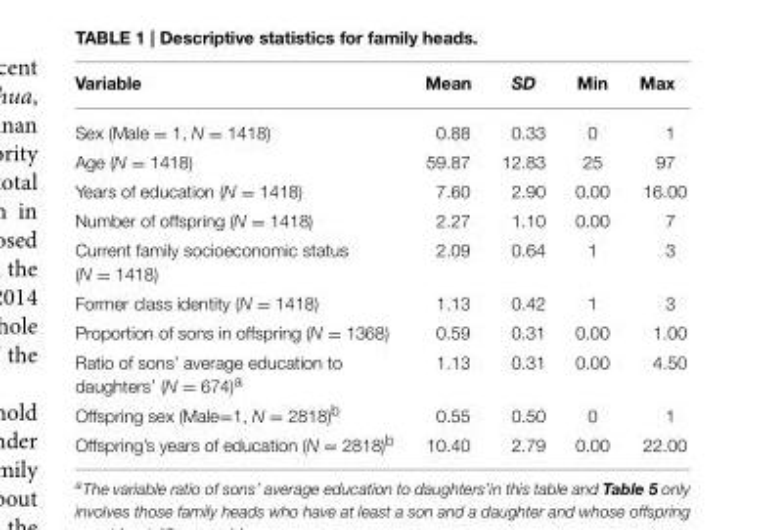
<table><thead><tr><td>Variable</td><td>Mean</td><td>SD</td><td>Min</td><td>Max</td></tr></thead><tbody><tr><td>Sex (Male = 1, N = 1418)</td><td>0.88</td><td>0.33</td><td>0</td><td>1</td></tr><tr><td>Age (N = 1418)</td><td>59.87</td><td>12.83</td><td>25</td><td>97</td></tr><tr><td>Years of education (N = 1418)</td><td>7.60</td><td>2.90</td><td>0.00</td><td>16.00</td></tr><tr><td>Number of offspring (N = 1418)</td><td>2.27</td><td>1.10</td><td>0.00</td><td>7</td></tr><tr><td>Current family socioeconomic status (N = 1418)</td><td>2.09</td><td>0.64</td><td>1</td><td>3</td></tr><tr><td>Former class identity (N = 1418)</td><td>1.13</td><td>0.42</td><td>1</td><td>3</td></tr><tr><td>Proportion of sons in offspring (N = 1368)</td><td>0.59</td><td>0.31</td><td>0.00</td><td>1.00</td></tr><tr><td>Ratio of sons’ average education to daughters’ (N = 674)<sup>a</sup></td><td>1.13</td><td>0.31</td><td>0.00</td><td>4.50</td></tr><tr><td>Offspring sex (Male=1, N = 2818)<sup>b</sup></td><td>0.55</td><td>0.50</td><td>0</td><td>1</td></tr><tr><td>Offspring’s years of education (N = 2818)<sup>b</sup></td><td>10.40</td><td>2.79</td><td>0.00</td><td>22.00</td></tr></tbody></table>